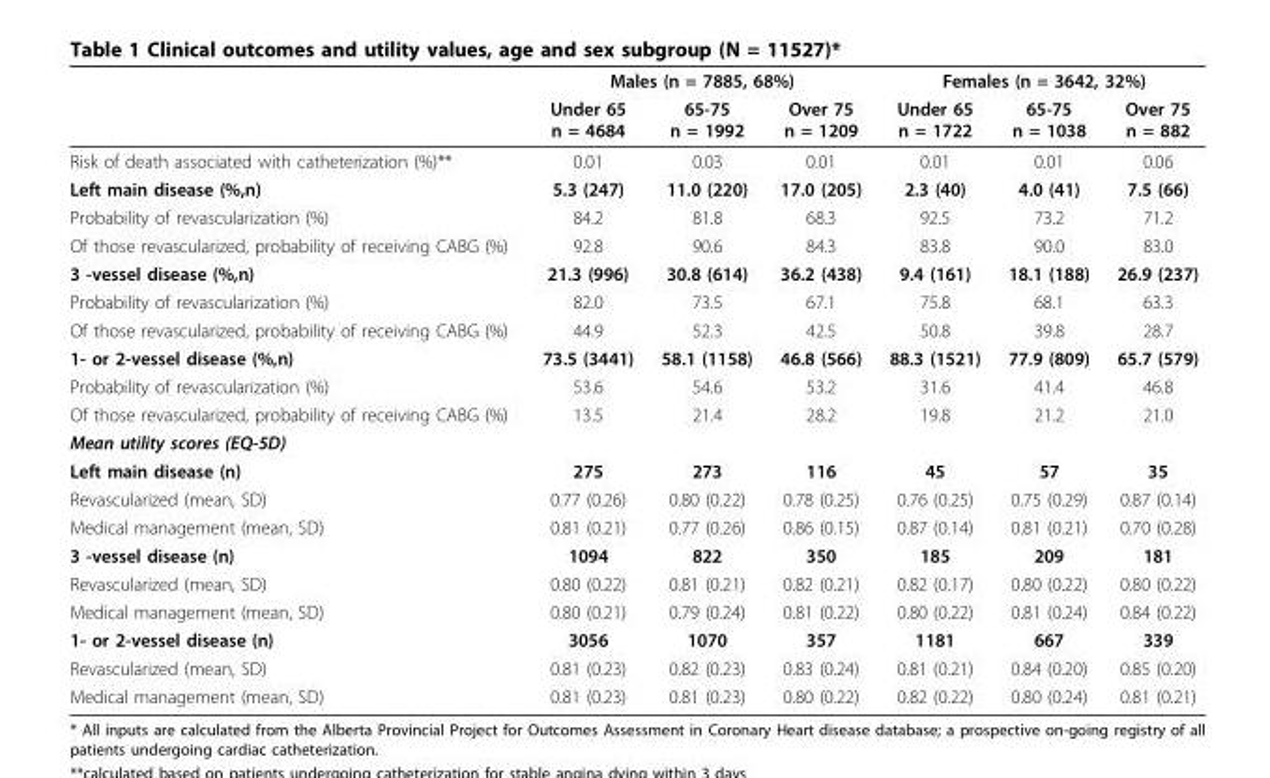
<table><thead><tr><td rowspan="2"></td><td colspan="3">Males (n = 7885, 68%)</td><td colspan="3">Females (n = 3642, 32%)</td></tr><tr><td>Under 65 n = 4684</td><td>65-75 n = 1992</td><td>Over 75 n = 1209</td><td>Under 65 n = 1722</td><td>65-75 n = 1038</td><td>Over 75 n = 882</td></tr></thead><tbody><tr><td>Risk of death associated with catheterization (%)**</td><td>0.01</td><td>0.03</td><td>0.01</td><td>0.01</td><td>0.01</td><td>0.06</td></tr><tr><td>Left main disease (%,n)</td><td>5.3 (247)</td><td>11.0 (220)</td><td>17.0 (205)</td><td>2.3 (40)</td><td>4.0 (41)</td><td>7.5 (66)</td></tr><tr><td>Probability of revascularization (%)</td><td>84.2</td><td>81.8</td><td>68.3</td><td>92.5</td><td>73.2</td><td>71.2</td></tr><tr><td>Of those revascularized, probability of receiving CABG (%)</td><td>92.8</td><td>90.6</td><td>84.3</td><td>83.8</td><td>90.0</td><td>83.0</td></tr><tr><td>3 -vessel disease (%,n)</td><td>21.3 (996)</td><td>30.8 (614)</td><td>36.2 (438)</td><td>9.4 (161)</td><td>18.1 (188)</td><td>26.9 (237)</td></tr><tr><td>Probability of revascularization (%)</td><td>82.0</td><td>73.5</td><td>67.1</td><td>75.8</td><td>68.1</td><td>63.3</td></tr><tr><td>Of those revascularized, probability of receiving CABG (%)</td><td>44.9</td><td>52.3</td><td>42.5</td><td>50.8</td><td>39.8</td><td>28.7</td></tr><tr><td>1- or 2-vessel disease (%,n)</td><td>73.5 (3441)</td><td>58.1 (1158)</td><td>46.8 (566)</td><td>88.3 (1521)</td><td>77.9 (809)</td><td>65.7 (579)</td></tr><tr><td>Probability of revascularization (%)</td><td>53.6</td><td>54.6</td><td>53.2</td><td>31.6</td><td>41.4</td><td>46.8</td></tr><tr><td>Of those revascularized, probability of receiving CABG (%)</td><td>13.5</td><td>21.4</td><td>28.2</td><td>19.8</td><td>21.2</td><td>21.0</td></tr><tr><td colspan="7">Mean utility scores (EQ-5D)</td></tr><tr><td>Left main disease (n)</td><td>275</td><td>273</td><td>116</td><td>45</td><td>57</td><td>35</td></tr><tr><td>Revascularized (mean, SD)</td><td>0.77 (0.26)</td><td>0.80 (0.22)</td><td>0.78 (0.25)</td><td>0.76 (0.25)</td><td>0.75 (0.29)</td><td>0.87 (0.14)</td></tr><tr><td>Medical management (mean, SD)</td><td>0.81 (0.21)</td><td>0.77 (0.26)</td><td>0.86 (0.15)</td><td>0.87 (0.14)</td><td>0.81 (0.21)</td><td>0.70 (0.28)</td></tr><tr><td>3 -vessel disease (n)</td><td>1094</td><td>822</td><td>350</td><td>185</td><td>209</td><td>181</td></tr><tr><td>Revascularized (mean, SD)</td><td>0.80 (0.22)</td><td>0.81 (0.21)</td><td>0.82 (0.21)</td><td>0.82 (0.17)</td><td>0.80 (0.22)</td><td>0.80 (0.22)</td></tr><tr><td>Medical management (mean, SD)</td><td>0.80 (0.21)</td><td>0.79 (0.24)</td><td>0.81 (0.22)</td><td>0.80 (0.22)</td><td>0.81 (0.24)</td><td>0.84 (0.22)</td></tr><tr><td>1- or 2-vessel disease (n)</td><td>3056</td><td>1070</td><td>357</td><td>1181</td><td>667</td><td>339</td></tr><tr><td>Revascularized (mean, SD)</td><td>0.81 (0.23)</td><td>0.82 (0.23)</td><td>0.83 (0.24)</td><td>0.81 (0.21)</td><td>0.84 (0.20)</td><td>0.85 (0.20)</td></tr><tr><td>Medical management (mean, SD)</td><td>0.81 (0.23)</td><td>0.81 (0.23)</td><td>0.80 (0.22)</td><td>0.82 (0.22)</td><td>0.80 (0.24)</td><td>0.81 (0.21)</td></tr></tbody></table>